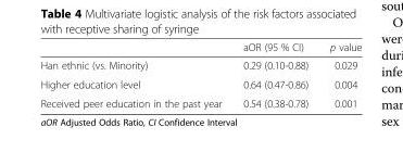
<table><thead><tr><td></td><td>aOR (95 % CI)</td><td>p value</td></tr></thead><tbody><tr><td>Han ethnic (vs. Minority)</td><td>0.29 (0.10-0.88)</td><td>0.029</td></tr><tr><td>Higher education level</td><td>0.64 (0.47-0.86)</td><td>0.004</td></tr><tr><td>Received peer education in the past year</td><td>0.54 (0.38-0.78)</td><td>0.001</td></tr></tbody></table>